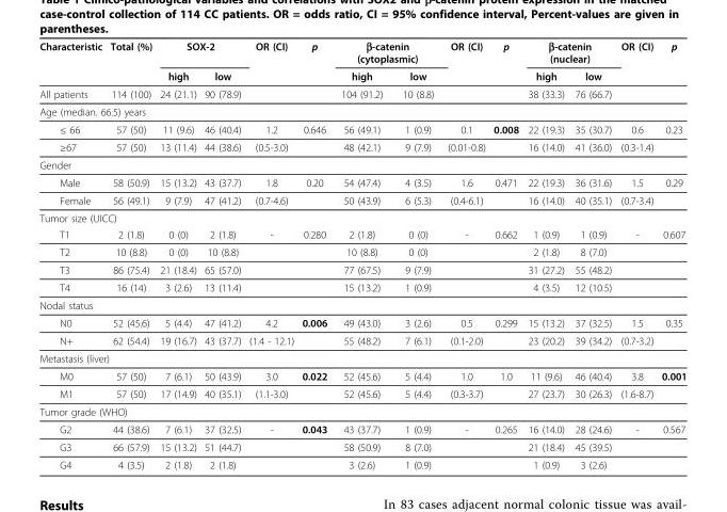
<table><thead><tr><td rowspan="2">Characteristic</td><td rowspan="2">Total (%)</td><td colspan="2">SOX-2</td><td rowspan="2">OR (CI)</td><td rowspan="2">p</td><td colspan="2">β-catenin (cytoplasmic)</td><td rowspan="2">OR (CI)</td><td rowspan="2">p</td><td colspan="2">β-catenin (nuclear)</td><td rowspan="2">OR (CI)</td><td rowspan="2">p</td></tr><tr><td>high</td><td>low</td><td>high</td><td>low</td><td>high</td><td>low</td></tr></thead><tbody><tr><td>All patients</td><td>114 (100)</td><td>24 (21.1)</td><td>90 (78.9)</td><td></td><td></td><td>104 (91.2)</td><td>10 (8.8)</td><td></td><td></td><td>38 (33.3)</td><td>76 (66.7)</td><td></td><td></td></tr><tr><td colspan="14">Age (median. 66.5) years</td></tr><tr><td>≤ 66</td><td>57 (50)</td><td>11 (9.6)</td><td>46 (40.4)</td><td>1.2</td><td>0.646</td><td>56 (49.1)</td><td>1 (0.9)</td><td>0.1</td><td>0.008</td><td>22 (19.3)</td><td>35 (30.7)</td><td>0.6</td><td>0.23</td></tr><tr><td>≥67</td><td>57 (50)</td><td>13 (11.4)</td><td>44 (38.6)</td><td>(0.5-3.0)</td><td></td><td>48 (42.1)</td><td>9 (7.9)</td><td>(0.01-0.8)</td><td></td><td>16 (14.0)</td><td>41 (36.0)</td><td>(0.3-1.4)</td><td></td></tr><tr><td colspan="14">Gender</td></tr><tr><td>Male</td><td>58 (50.9)</td><td>15 (13.2)</td><td>43 (37.7)</td><td>1.8</td><td>0.20</td><td>54 (47.4)</td><td>4 (3.5)</td><td>1.6</td><td>0.471</td><td>22 (19.3)</td><td>36 (31.6)</td><td>1.5</td><td>0.29</td></tr><tr><td>Female</td><td>56 (49.1)</td><td>9 (7.9)</td><td>47 (41.2)</td><td>(0.7-4.6)</td><td></td><td>50 (43.9)</td><td>6 (5.3)</td><td>(0.4-6.1)</td><td></td><td>16 (14.0)</td><td>40 (35.1)</td><td>(0.7-3.4)</td><td></td></tr><tr><td colspan="14">Tumor size (UICC)</td></tr><tr><td>T1</td><td>2 (1.8)</td><td>0 (0)</td><td>2 (1.8)</td><td>-</td><td>0.280</td><td>2 (1.8)</td><td>0 (0)</td><td>-</td><td>0.662</td><td>1 (0.9)</td><td>1 (0.9)</td><td>-</td><td>0.607</td></tr><tr><td>T2</td><td>10 (8.8)</td><td>0 (0)</td><td>10 (8.8)</td><td></td><td></td><td>10 (8.8)</td><td>0 (0)</td><td></td><td></td><td>2 (1.8)</td><td>8 (7.0)</td><td></td><td></td></tr><tr><td>T3</td><td>86 (75.4)</td><td>21 (18.4)</td><td>65 (57.0)</td><td></td><td></td><td>77 (67.5)</td><td>9 (7.9)</td><td></td><td></td><td>31 (27.2)</td><td>55 (48.2)</td><td></td><td></td></tr><tr><td>T4</td><td>16 (14)</td><td>3 (2.6)</td><td>13 (11.4)</td><td></td><td></td><td>15 (13.2)</td><td>1 (0.9)</td><td></td><td></td><td>4 (3.5)</td><td>12 (10.5)</td><td></td><td></td></tr><tr><td colspan="14">Nodal status</td></tr><tr><td>N0</td><td>52 (45.6)</td><td>5 (4.4)</td><td>47 (41.2)</td><td>4.2</td><td>0.006</td><td>49 (43.0)</td><td>3 (2.6)</td><td>0.5</td><td>0.299</td><td>15 (13.2)</td><td>37 (32.5)</td><td>1.5</td><td>0.35</td></tr><tr><td>N+</td><td>62 (54.4)</td><td>19 (16.7)</td><td>43 (37.7)</td><td>(1.4 - 12.1)</td><td></td><td>55 (48.2)</td><td>7 (6.1)</td><td>(0.1-2.0)</td><td></td><td>23 (20.2)</td><td>39 (34.2)</td><td>(0.7-3.2)</td><td></td></tr><tr><td colspan="14">Metastasis (liver)</td></tr><tr><td>M0</td><td>57 (50)</td><td>7 (6.1)</td><td>50 (43.9)</td><td>3.0</td><td>0.022</td><td>52 (45.6)</td><td>5 (4.4)</td><td>1.0</td><td>1.0</td><td>11 (9.6)</td><td>46 (40.4)</td><td>3.8</td><td>0.001</td></tr><tr><td>M1</td><td>57 (50)</td><td>17 (14.9)</td><td>40 (35.1)</td><td>(1.1-3.0)</td><td></td><td>52 (45.6)</td><td>5 (4.4)</td><td>(0.3-3.7)</td><td></td><td>27 (23.7)</td><td>30 (26.3)</td><td>(1.6-8.7)</td><td></td></tr><tr><td colspan="14">Tumor grade (WHO)</td></tr><tr><td>G2</td><td>44 (38.6)</td><td>7 (6.1)</td><td>37 (32.5)</td><td>-</td><td>0.043</td><td>43 (37.7)</td><td>1 (0.9)</td><td>-</td><td>0.265</td><td>16 (14.0)</td><td>28 (24.6)</td><td>-</td><td>0.567</td></tr><tr><td>G3</td><td>66 (57.9)</td><td>15 (13.2)</td><td>51 (44.7)</td><td></td><td></td><td>58 (50.9)</td><td>8 (7.0)</td><td></td><td></td><td>21 (18.4)</td><td>45 (39.5)</td><td></td><td></td></tr><tr><td>G4</td><td>4 (3.5)</td><td>2 (1.8)</td><td>2 (1.8)</td><td></td><td></td><td>3 (2.6)</td><td>1 (0.9)</td><td></td><td></td><td>1 (0.9)</td><td>3 (2.6)</td><td></td><td></td></tr></tbody></table>